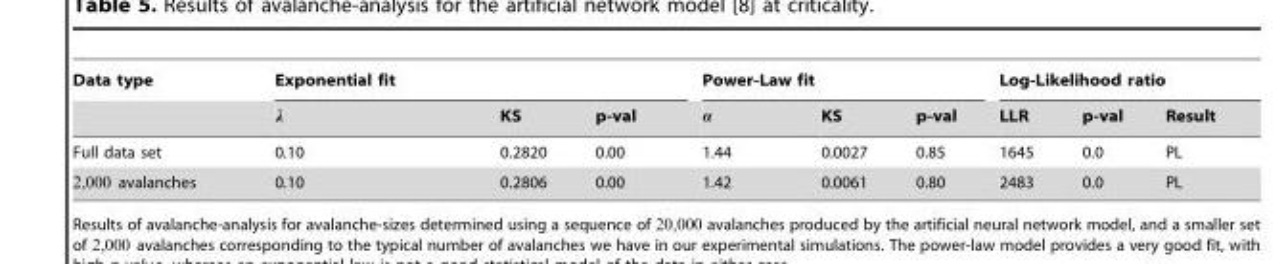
<table><thead><tr><td rowspan="2">Data type</td><td colspan="3">Exponential fit</td><td colspan="3">Power-Law fit</td><td colspan="3">Log-Likelihood ratio</td></tr><tr><td>l</td><td>KS</td><td>p-val</td><td>a</td><td>KS</td><td>p-val</td><td>LLR</td><td>p-val</td><td>Result</td></tr></thead><tbody><tr><td>Full data set</td><td>0.10</td><td>0.2820</td><td>0.00</td><td>1.44</td><td>0.0027</td><td>0.85</td><td>1645</td><td>0.0</td><td>PL</td></tr><tr><td>2,000 avalanches</td><td>0.10</td><td>0.2806</td><td>0.00</td><td>1.42</td><td>0.0061</td><td>0.80</td><td>2483</td><td>0.0</td><td>PL</td></tr></tbody></table>